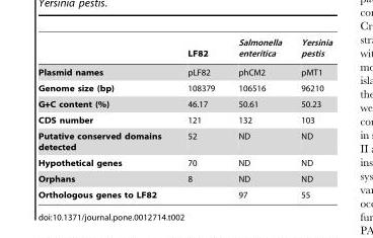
<table><thead><tr><td></td><td>LF82</td><td>Salmonella enteritica</td><td>Yersinia pestis</td></tr></thead><tbody><tr><td>Plasmid names</td><td>pLF82</td><td>phCM2</td><td>pMT1</td></tr><tr><td>Genome size (bp)</td><td>108379</td><td>106516</td><td>96210</td></tr><tr><td>G+C content (%)</td><td>46.17</td><td>50.61</td><td>50.23</td></tr><tr><td>CDS number</td><td>121</td><td>132</td><td>103</td></tr><tr><td>Putative conserved domains detected</td><td>52</td><td>ND</td><td>ND</td></tr><tr><td>Hypothetical genes</td><td>70</td><td>ND</td><td>ND</td></tr><tr><td>Orphans</td><td>8</td><td>ND</td><td>ND</td></tr><tr><td>Orthologous genes to LF82</td><td></td><td>97</td><td>55</td></tr></tbody></table>